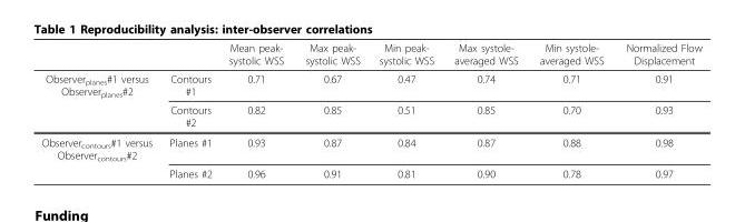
<table><thead><tr><td></td><td></td><td>Mean peak- systolic WSS</td><td>Max peak- systolic WSS</td><td>Min peak- systolic WSS</td><td>Max systole- averaged WSS</td><td>Min systole- averaged WSS</td><td>Normalized Flow Displacement</td></tr></thead><tbody><tr><td rowspan="2">Observer<sub>planes</sub>#1 versus Observer<sub>planes</sub>#2</td><td>Contours #1</td><td>0.71</td><td>0.67</td><td>0.47</td><td>0.74</td><td>0.71</td><td>0.91</td></tr><tr><td>Contours #2</td><td>0.82</td><td>0.85</td><td>0.51</td><td>0.85</td><td>0.70</td><td>0.93</td></tr><tr><td rowspan="2">Observercontours#1 versus Observercontours#2</td><td>Planes #1</td><td>0.93</td><td>0.87</td><td>0.84</td><td>0.87</td><td>0.88</td><td>0.98</td></tr><tr><td>Planes #2</td><td>0.96</td><td>0.91</td><td>0.81</td><td>0.90</td><td>0.78</td><td>0.97</td></tr></tbody></table>